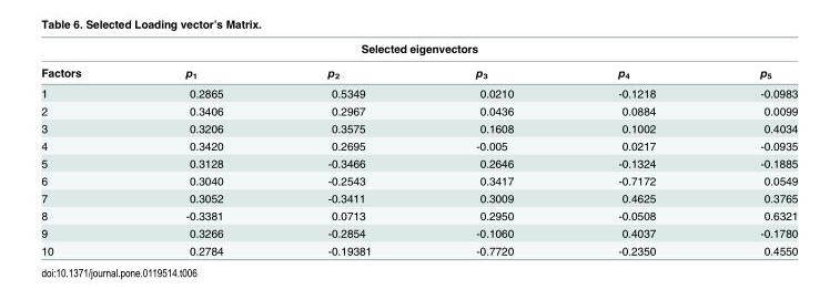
<table><thead><tr><td colspan="6">Selected eigenvectors</td></tr><tr><td>Factors</td><td>p<sub>1</sub></td><td>p<sub>2</sub></td><td>p<sub>3</sub></td><td>p<sub>4</sub></td><td>p<sub>5</sub></td></tr></thead><tbody><tr><td>1</td><td>0.2865</td><td>0.5349</td><td>0.0210</td><td>-0.1218</td><td>-0.0983</td></tr><tr><td>2</td><td>0.3406</td><td>0.2967</td><td>0.0436</td><td>0.0884</td><td>0.0099</td></tr><tr><td>3</td><td>0.3206</td><td>0.3575</td><td>0.1608</td><td>0.1002</td><td>0.4034</td></tr><tr><td>4</td><td>0.3420</td><td>0.2695</td><td>-0.005</td><td>0.0217</td><td>-0.0935</td></tr><tr><td>5</td><td>0.3128</td><td>-0.3466</td><td>0.2646</td><td>-0.1324</td><td>-0.1885</td></tr><tr><td>6</td><td>0.3040</td><td>-0.2543</td><td>0.3417</td><td>-0.7172</td><td>0.0549</td></tr><tr><td>7</td><td>0.3052</td><td>-0.3411</td><td>0.3009</td><td>0.4625</td><td>0.3765</td></tr><tr><td>8</td><td>-0.3381</td><td>0.0713</td><td>0.2950</td><td>-0.0508</td><td>0.6321</td></tr><tr><td>9</td><td>0.3266</td><td>-0.2854</td><td>-0.1060</td><td>0.4037</td><td>-0.1780</td></tr><tr><td>10</td><td>0.2784</td><td>-0.19381</td><td>-0.7720</td><td>-0.2350</td><td>0.4550</td></tr></tbody></table>